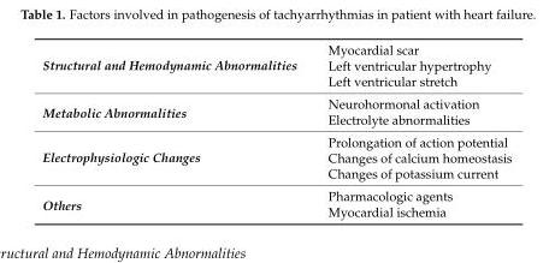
<table><tbody><tr><td rowspan="3">Structural and Hemodynamic Abnormalities</td><td>Myocardial scar</td></tr><tr><td>Left ventricular hypertrophy</td></tr><tr><td>Left ventricular stretch</td></tr><tr><td rowspan="2">Metabolic Abnormalities</td><td>Neurohormonal activation</td></tr><tr><td>Electrolyte abnormalities</td></tr><tr><td rowspan="3">Electrophysiologic Changes</td><td>Prolongation of action potential</td></tr><tr><td>Changes of calcium homeostasis</td></tr><tr><td>Changes of potassium current</td></tr><tr><td rowspan="2">Others</td><td>Pharmacologic agents</td></tr><tr><td>Myocardial ischemia</td></tr></tbody></table>